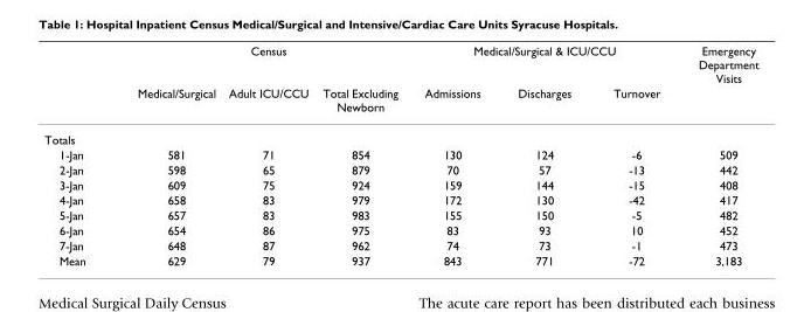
<table><thead><tr><td rowspan="2"></td><td colspan="3">Census</td><td colspan="3">Medical/Surgical &amp; ICU/CCU</td><td rowspan="2">Emergency Department Visits</td></tr><tr><td>Medical/Surgical</td><td>Adult ICU/CCU</td><td>Total Excluding Newborn</td><td>Admissions</td><td>Discharges</td><td>Turnover</td></tr></thead><tbody><tr><td colspan="8">Totals</td></tr><tr><td>1-Jan</td><td>581</td><td>71</td><td>854</td><td>130</td><td>124</td><td>-6</td><td>509</td></tr><tr><td>2-Jan</td><td>598</td><td>65</td><td>879</td><td>70</td><td>57</td><td>-13</td><td>442</td></tr><tr><td>3-Jan</td><td>609</td><td>75</td><td>924</td><td>159</td><td>144</td><td>-15</td><td>408</td></tr><tr><td>4-Jan</td><td>658</td><td>83</td><td>979</td><td>172</td><td>130</td><td>-42</td><td>417</td></tr><tr><td>5-Jan</td><td>657</td><td>83</td><td>983</td><td>155</td><td>150</td><td>-5</td><td>482</td></tr><tr><td>6-Jan</td><td>654</td><td>86</td><td>975</td><td>83</td><td>93</td><td>10</td><td>452</td></tr><tr><td>7-Jan</td><td>648</td><td>87</td><td>962</td><td>74</td><td>73</td><td>-1</td><td>473</td></tr><tr><td>Mean</td><td>629</td><td>79</td><td>937</td><td>843</td><td>771</td><td>-72</td><td>3,183</td></tr></tbody></table>